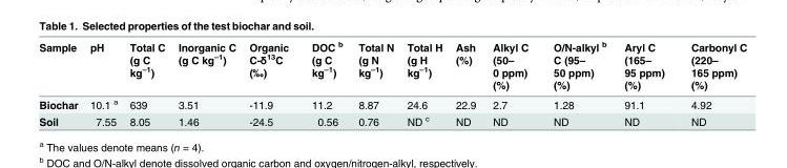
<table><thead><tr><td>Sample</td><td>pH</td><td>Total C (g C kg<sup>–1</sup>)</td><td>Inorganic C (g C kg<sup>–1</sup>)</td><td>Organic C-δ<sup>13</sup>C (‰)</td><td>DOC <sup>b</sup> (g C kg<sup>–1</sup>)</td><td>Total N (g N kg<sup>–1</sup>)</td><td>Total H (g H kg<sup>–1</sup>)</td><td>Ash (%)</td><td>Alkyl C (50– 0 ppm) (%)</td><td>O/N-alkyl <sup>b</sup> C (95– 50 ppm) (%)</td><td>Aryl C (165– 95 ppm) (%)</td><td>Carbonyl C (220– 165 ppm) (%)</td></tr></thead><tbody><tr><td>Biochar</td><td>10.1 <sup>a</sup></td><td>639</td><td>3.51</td><td>-11.9</td><td>11.2</td><td>8.87</td><td>24.6</td><td>22.9</td><td>2.7</td><td>1.28</td><td>91.1</td><td>4.92</td></tr><tr><td>Soil</td><td>7.55</td><td>8.05</td><td>1.46</td><td>-24.5</td><td>0.56</td><td>0.76</td><td>ND <sup>c</sup></td><td>ND</td><td>ND</td><td>ND</td><td>ND</td><td>ND</td></tr></tbody></table>